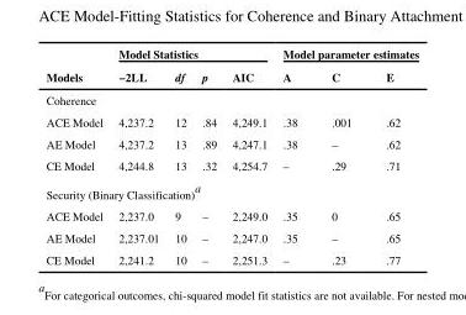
<table><thead><tr><td rowspan="2">Models</td><td colspan="4">Model Statistics</td><td colspan="3">Model parameter estimates</td></tr><tr><td>−2LL</td><td>df</td><td>p</td><td>AIC</td><td>A</td><td>C</td><td>E</td></tr></thead><tbody><tr><td colspan="8">Coherence</td></tr><tr><td>ACE Model</td><td>4,237.2</td><td>12</td><td>.84</td><td>4,249.1</td><td>.38</td><td>.001</td><td>.62</td></tr><tr><td>AE Model</td><td>4,237.2</td><td>13</td><td>.89</td><td>4,247.1</td><td>.38</td><td>–</td><td>.62</td></tr><tr><td>CE Model</td><td>4,244.8</td><td>13</td><td>.32</td><td>4,254.7</td><td>–</td><td>.29</td><td>.71</td></tr><tr><td colspan="8">Security (Binary Classification)<sup>a</sup></td></tr><tr><td>ACE Model</td><td>2,237.0</td><td>9</td><td>–</td><td>2,249.0</td><td>.35</td><td>0</td><td>.65</td></tr><tr><td>AE Model</td><td>2,237.01</td><td>10</td><td>–</td><td>2,247.0</td><td>.35</td><td>–</td><td>.65</td></tr><tr><td>CE Model</td><td>2,241.2</td><td>10</td><td>–</td><td>2,251.3</td><td>–</td><td>.23</td><td>.77</td></tr></tbody></table>